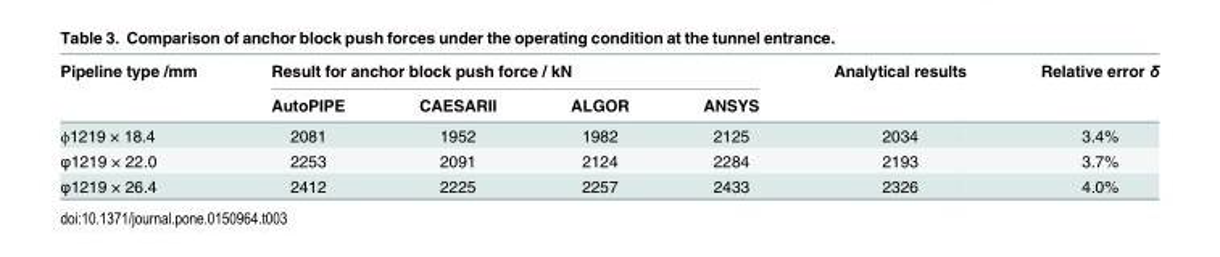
<table><thead><tr><td rowspan="2">Pipeline type /mm</td><td colspan="4">Result for anchor block push force / kN</td><td rowspan="2">Analytical results</td><td rowspan="2">Relative error δ</td></tr><tr><td>AutoPIPE</td><td>CAESARII</td><td>ALGOR</td><td>ANSYS</td></tr></thead><tbody><tr><td>ϕ1219 × 18.4</td><td>2081</td><td>1952</td><td>1982</td><td>2125</td><td>2034</td><td>3.4%</td></tr><tr><td>φ1219 × 22.0</td><td>2253</td><td>2091</td><td>2124</td><td>2284</td><td>2193</td><td>3.7%</td></tr><tr><td>φ1219 × 26.4</td><td>2412</td><td>2225</td><td>2257</td><td>2433</td><td>2326</td><td>4.0%</td></tr></tbody></table>